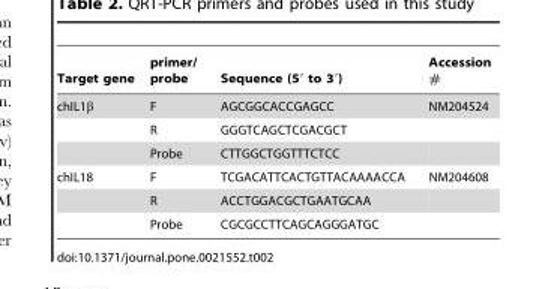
<table><thead><tr><td>Target gene</td><td>primer/ probe</td><td>Sequence (5′ to 3′)</td><td>Accession #</td></tr></thead><tbody><tr><td rowspan="3">chIL1β</td><td>F</td><td>AGCGGCACCGAGCC</td><td>NM204524</td></tr><tr><td>R</td><td>GGGTCAGCTCGACGCT</td><td></td></tr><tr><td>Probe</td><td>CTTGGCTGGTTTCTCC</td><td></td></tr><tr><td rowspan="3">chIL18</td><td>F</td><td>TCGACATTCACTGTTACAAAACCA</td><td>NM204608</td></tr><tr><td>R</td><td>ACCTGGACGCTGAATGCAA</td><td></td></tr><tr><td>Probe</td><td>CGCGCCTTCAGCAGGGATGC</td><td></td></tr></tbody></table>